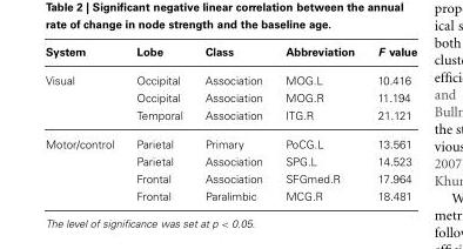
<table><thead><tr><td>System</td><td>Lobe</td><td>Class</td><td>Abbreviation</td><td>F value</td></tr></thead><tbody><tr><td rowspan="3">Visual</td><td>Occipital</td><td>Association</td><td>MOG.L</td><td>10.416</td></tr><tr><td>Occipital</td><td>Association</td><td>MOG.R</td><td>11.194</td></tr><tr><td>Temporal</td><td>Association</td><td>ITG.R</td><td>21.121</td></tr><tr><td rowspan="4">Motor/control</td><td>Parietal</td><td>Primary</td><td>PoCG.L</td><td>13.561</td></tr><tr><td>Parietal</td><td>Association</td><td>SPG.L</td><td>14.523</td></tr><tr><td>Frontal</td><td>Association</td><td>SFGmed.R</td><td>17.964</td></tr><tr><td>Frontal</td><td>Paralimbic</td><td>MCG.R</td><td>18.481</td></tr></tbody></table>